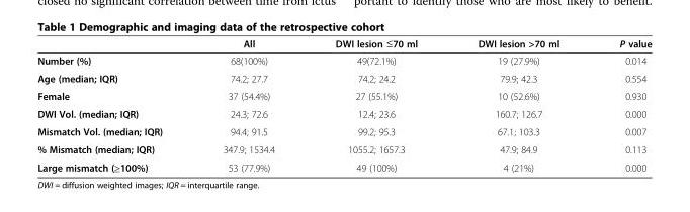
<table><thead><tr><td></td><td>All</td><td>DWI lesion ≤70 ml</td><td>DWI lesion &gt;70 ml</td><td>P value</td></tr></thead><tbody><tr><td>Number (%)</td><td>68(100%)</td><td>49(72.1%)</td><td>19 (27.9%)</td><td>0.014</td></tr><tr><td>Age (median; IQR)</td><td>74.2; 27.7</td><td>74.2; 24.2</td><td>79.9; 42.3</td><td>0.554</td></tr><tr><td>Female</td><td>37 (54.4%)</td><td>27 (55.1%)</td><td>10 (52.6%)</td><td>0.930</td></tr><tr><td>DWI Vol. (median; IQR)</td><td>24.3; 72.6</td><td>12.4; 23.6</td><td>160.7; 126.7</td><td>0.000</td></tr><tr><td>Mismatch Vol. (median; IQR)</td><td>94.4; 91.5</td><td>99.2; 95.3</td><td>67.1; 103.3</td><td>0.007</td></tr><tr><td>% Mismatch (median; IQR)</td><td>347.9; 1534.4</td><td>1055.2; 1657.3</td><td>47.9; 84.9</td><td>0.113</td></tr><tr><td>Large mismatch (≥100%)</td><td>53 (77.9%)</td><td>49 (100%)</td><td>4 (21%)</td><td>0.000</td></tr></tbody></table>